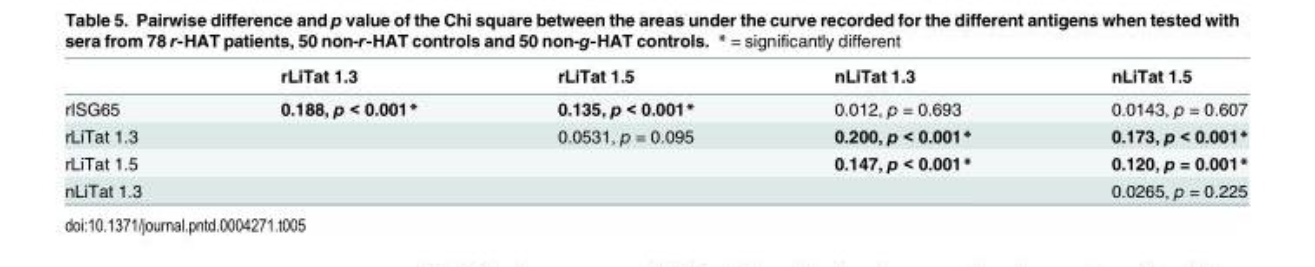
<table><thead><tr><td></td><td>rLiTat 1.3</td><td>rLiTat 1.5</td><td>nLiTat 1.3</td><td>nLiTat 1.5</td></tr></thead><tbody><tr><td>rISG65</td><td>0.188, p &lt; 0.001*</td><td>0.135, p &lt; 0.001*</td><td>0.012, p = 0.693</td><td>0.0143, p = 0.607</td></tr><tr><td>rLiTat 1.3</td><td></td><td>0.0531, p = 0.095</td><td>0.200, p &lt; 0.001*</td><td>0.173, p &lt; 0.001*</td></tr><tr><td>rLiTat 1.5</td><td></td><td></td><td>0.147, p &lt; 0.001*</td><td>0.120, p = 0.001*</td></tr><tr><td>nLiTat 1.3</td><td></td><td></td><td></td><td>0.0265, p = 0.225</td></tr></tbody></table>